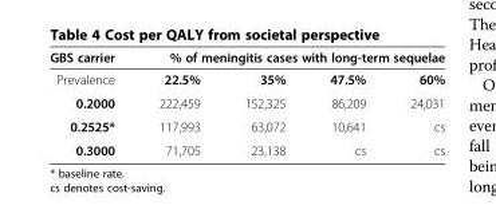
<table><thead><tr><td rowspan="2">GBS carrier Prevalence</td><td colspan="4">% of meningitis cases with long-term sequelae</td></tr><tr><td>22.5%</td><td>35%</td><td>47.5%</td><td>60%</td></tr></thead><tbody><tr><td>0.2000</td><td>222,459</td><td>152,325</td><td>86,209</td><td>24,031</td></tr><tr><td>0.2525*</td><td>117,993</td><td>63,072</td><td>10,641</td><td>cs</td></tr><tr><td>0.3000</td><td>71,705</td><td>23,138</td><td>cs</td><td>cs</td></tr></tbody></table>